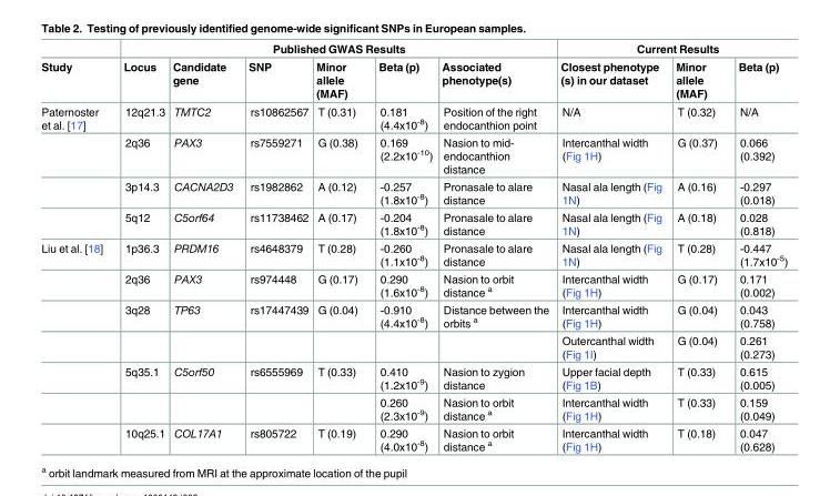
<table><thead><tr><td rowspan="2">Study</td><td colspan="6">Published GWAS Results</td><td colspan="3">Current Results</td></tr><tr><td>Locus</td><td>Candidate gene</td><td>SNP</td><td>Minor allele (MAF)</td><td>Beta (p)</td><td>Associated phenotype(s)</td><td>Closest phenotype (s) in our dataset</td><td>Minor allele (MAF)</td><td>Beta (p)</td></tr></thead><tbody><tr><td rowspan="4">Paternoster et al. [17]</td><td>12q21.3</td><td>TMTC2</td><td>rs10862567</td><td>T (0.31)</td><td>0.181 (4.4x10<sup>-8</sup>)</td><td>Position of the right endocanthion point</td><td>N/A</td><td>T (0.32)</td><td>N/A</td></tr><tr><td>2q36</td><td>PAX3</td><td>rs7559271</td><td>G (0.38)</td><td>0.169 (2.2x10<sup>-10</sup>)</td><td>Nasion to mid- endocanthion distance</td><td>Intercanthal width (Fig 1H)</td><td>G (0.37)</td><td>0.066 (0.392)</td></tr><tr><td>3p14.3</td><td>CACNA2D3</td><td>rs1982862</td><td>A (0.12)</td><td>-0.257 (1.8x10<sup>-8</sup>)</td><td>Pronasale to alare distance</td><td>Nasal ala length (Fig 1N)</td><td>A (0.16)</td><td>-0.297 (0.018)</td></tr><tr><td>5q12</td><td>C5orf64</td><td>rs11738462</td><td>A (0.17)</td><td>-0.204 (1.8x10<sup>-8</sup>)</td><td>Pronasale to alare distance</td><td>Nasal ala length (Fig 1N)</td><td>A (0.18)</td><td>0.028 (0.818)</td></tr><tr><td rowspan="7">Liu et al. [18]</td><td>1p36.3</td><td>PRDM16</td><td>rs4648379</td><td>T (0.28)</td><td>-0.260 (1.1x10<sup>-8</sup>)</td><td>Pronasale to alare distance</td><td>Nasal ala length (Fig 1N)</td><td>T (0.28)</td><td>-0.447 (1.7x10<sup>-5</sup>)</td></tr><tr><td>2q36</td><td>PAX3</td><td>rs974448</td><td>G (0.17)</td><td>0.290 (1.6x10<sup>-8</sup>)</td><td>Nasion to orbit distance <sup>a</sup></td><td>Intercanthal width (Fig 1H)</td><td>G (0.17)</td><td>0.171 (0.002)</td></tr><tr><td>3q28</td><td>TP63</td><td>rs17447439</td><td>G (0.04)</td><td>-0.910 (4.4x10<sup>-8</sup>)</td><td>Distance between the orbits <sup>a</sup></td><td>Intercanthal width (Fig 1H)</td><td>G (0.04)</td><td>0.043 (0.758)</td></tr><tr><td></td><td></td><td></td><td></td><td></td><td></td><td>Outercanthal width (Fig 1I)</td><td>G (0.04)</td><td>0.261 (0.273)</td></tr><tr><td>5q35.1</td><td>C5orf50</td><td>rs6555969</td><td>T (0.33)</td><td>0.410 (1.2x10<sup>-9</sup>)</td><td>Nasion to zygion distance</td><td>Upper facial depth (Fig 1B)</td><td>T (0.33)</td><td>0.615 (0.005)</td></tr><tr><td></td><td></td><td></td><td></td><td>0.260 (2.3x10<sup>-9</sup>)</td><td>Nasion to orbit distance <sup>a</sup></td><td>Intercanthal width (Fig 1H)</td><td>T (0.33)</td><td>0.159 (0.049)</td></tr><tr><td>10q25.1</td><td>COL17A1</td><td>rs805722</td><td>T (0.19)</td><td>0.290 (4.0x10<sup>-8</sup>)</td><td>Nasion to orbit distance <sup>a</sup></td><td>Intercanthal width (Fig 1H)</td><td>T (0.18)</td><td>0.047 (0.628)</td></tr></tbody></table>